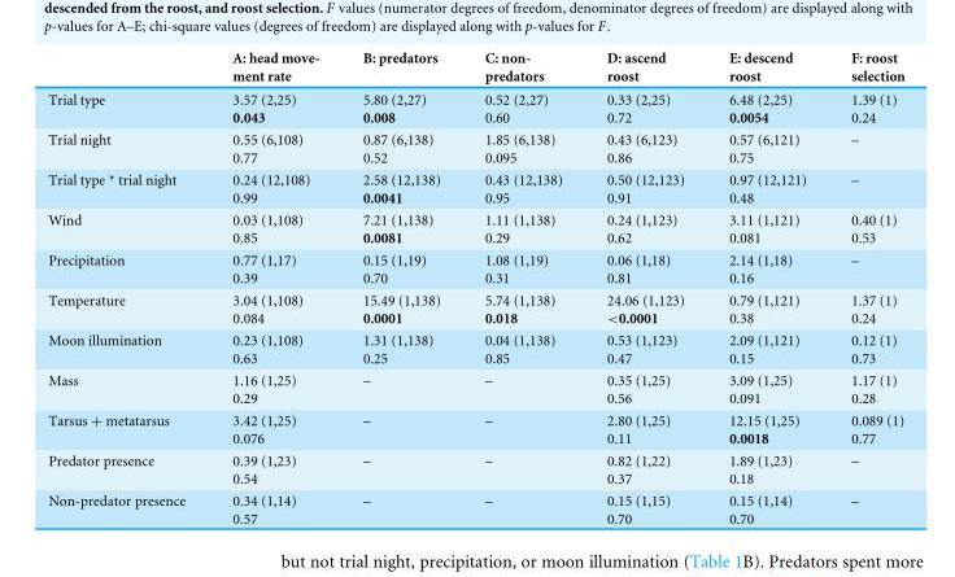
<table><thead><tr><td></td><td>A: head move- ment rate</td><td>B: predators</td><td>C: non- predators</td><td>D: ascend roost</td><td>E: descend roost</td><td>F: roost selection</td></tr></thead><tbody><tr><td>Trial type</td><td>3.57 (2,25) 0.043</td><td>5.80 (2,27) 0.008</td><td>0.52 (2,27) 0.60</td><td>0.33 (2,25) 0.72</td><td>6.48 (2,25) 0.0054</td><td>1.39 (1) 0.24</td></tr><tr><td>Trial night</td><td>0.55 (6,108) 0.77</td><td>0.87 (6,138) 0.52</td><td>1.85 (6,138) 0.095</td><td>0.43 (6,123) 0.86</td><td>0.57 (6,121) 0.75</td><td>–</td></tr><tr><td>Trial type * trial night</td><td>0.24 (12,108) 0.99</td><td>2.58 (12,138) 0.0041</td><td>0.43 (12,138) 0.95</td><td>0.50 (12,123) 0.91</td><td>0.97 (12,121) 0.48</td><td>–</td></tr><tr><td>Wind</td><td>0.03 (1,108) 0.85</td><td>7.21 (1,138) 0.0081</td><td>1.11 (1,138) 0.29</td><td>0.24 (1,123) 0.62</td><td>3.11 (1,121) 0.081</td><td>0.40 (1) 0.53</td></tr><tr><td>Precipitation</td><td>0.77 (1,17) 0.39</td><td>0.15 (1,19) 0.70</td><td>1.08 (1,19) 0.31</td><td>0.06 (1,18) 0.81</td><td>2.14 (1,18) 0.16</td><td>–</td></tr><tr><td>Temperature</td><td>3.04 (1,108) 0.084</td><td>15.49 (1,138) 0.0001</td><td>5.74 (1,138) 0.018</td><td>24.06 (1,123) &lt;0.0001</td><td>0.79 (1,121) 0.38</td><td>1.37 (1) 0.24</td></tr><tr><td>Moon illumination</td><td>0.23 (1,108) 0.63</td><td>1.31 (1,138) 0.25</td><td>0.04 (1,138) 0.85</td><td>0.53 (1,123) 0.47</td><td>2.09 (1,121) 0.15</td><td>0.12 (1) 0.73</td></tr><tr><td>Mass</td><td>1.16 (1,25) 0.29</td><td>–</td><td>–</td><td>0.35 (1,25) 0.56</td><td>3.09 (1,25) 0.091</td><td>1.17 (1) 0.28</td></tr><tr><td>Tarsus + metatarsus</td><td>3.42 (1,25) 0.076</td><td>–</td><td>–</td><td>2.80 (1,25) 0.11</td><td>12.15 (1,25) 0.0018</td><td>0.089 (1) 0.77</td></tr><tr><td>Predator presence</td><td>0.39 (1,23) 0.54</td><td>–</td><td>–</td><td>0.82 (1,22) 0.37</td><td>1.89 (1,23) 0.18</td><td>–</td></tr><tr><td>Non-predator presence</td><td>0.34 (1,14) 0.57</td><td>–</td><td>–</td><td>0.15 (1,15) 0.70</td><td>0.15 (1,14) 0.70</td><td>–</td></tr></tbody></table>